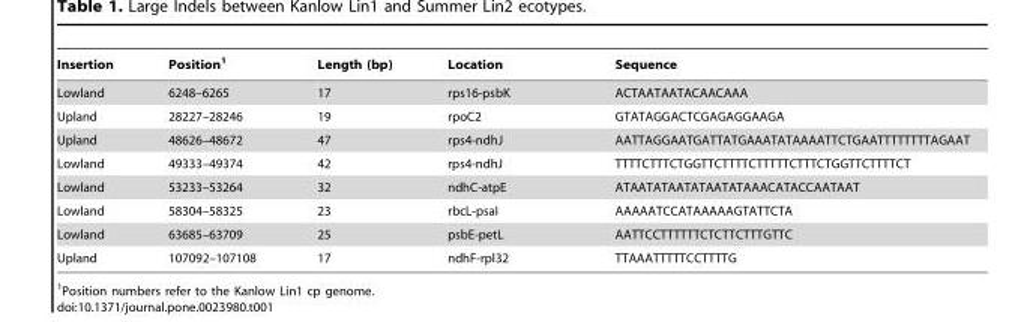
<table><thead><tr><td>Insertion</td><td>Position<sup>1</sup></td><td>Length (bp)</td><td>Location</td><td>Sequence</td></tr></thead><tbody><tr><td>Lowland</td><td>6248–6265</td><td>17</td><td>rps16-psbK</td><td>ACTAATAATACAACAAA</td></tr><tr><td>Upland</td><td>28227–28246</td><td>19</td><td>rpoC2</td><td>GTATAGGACTCGAGAGGAAGA</td></tr><tr><td>Upland</td><td>48626–48672</td><td>47</td><td>rps4-ndhJ</td><td>AATTAGGAATGATTATGAAATATAAAATTCTGAATTTTTTTTAGAAT</td></tr><tr><td>Lowland</td><td>49333–49374</td><td>42</td><td>rps4-ndhJ</td><td>TTTTCTTTCTGGTTCTTTTCTTTTTCTTTCTGGTTCTTTTCT</td></tr><tr><td>Lowland</td><td>53233–53264</td><td>32</td><td>ndhC-atpE</td><td>ATAATATAATATAATATAAACATACCAATAAT</td></tr><tr><td>Lowland</td><td>58304–58325</td><td>23</td><td>rbcL-psaI</td><td>AAAAATCCATAAAAAGTATTCTA</td></tr><tr><td>Lowland</td><td>63685–63709</td><td>25</td><td>psbE-petL</td><td>AATTCCTTTTTTCTCTTCTTTGTTC</td></tr><tr><td>Upland</td><td>107092–107108</td><td>17</td><td>ndhF-rpl32</td><td>TTAAATTTTTCCTTTTG</td></tr></tbody></table>